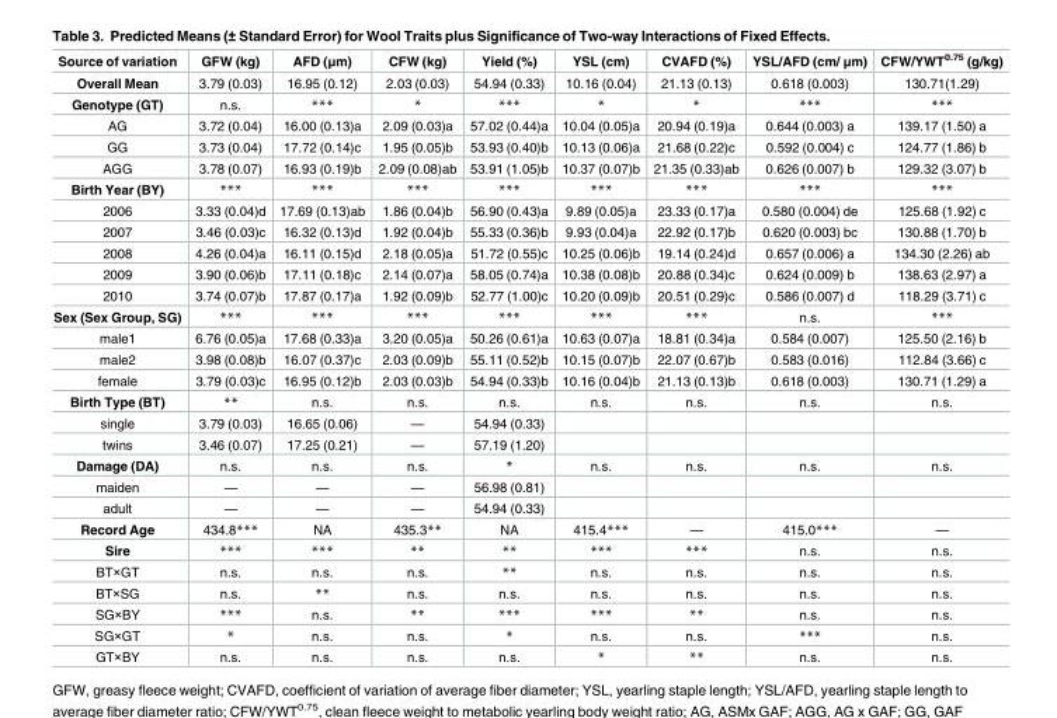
<table><thead><tr><td>Source of variation</td><td>GFW (kg)</td><td>AFD (μm)</td><td>CFW (kg)</td><td>Yield (%)</td><td>YSL (cm)</td><td>CVAFD (%)</td><td>YSL/AFD (cm/ μm)</td><td>CFW/YWT<sup>0.75</sup> (g/kg)</td></tr></thead><tbody><tr><td>Overall Mean</td><td>3.79 (0.03)</td><td>16.95 (0.12)</td><td>2.03 (0.03)</td><td>54.94 (0.33)</td><td>10.16 (0.04)</td><td>21.13 (0.13)</td><td>0.618 (0.003)</td><td>130.71(1.29)</td></tr><tr><td>Genotype (GT)</td><td>n.s.</td><td>***</td><td>*</td><td>***</td><td>*</td><td>*</td><td>***</td><td>***</td></tr><tr><td>AG</td><td>3.72 (0.04)</td><td>16.00 (0.13)a</td><td>2.09 (0.03)a</td><td>57.02 (0.44)a</td><td>10.04 (0.05)a</td><td>20.94 (0.19)a</td><td>0.644 (0.003) a</td><td>139.17 (1.50) a</td></tr><tr><td>GG</td><td>3.73 (0.04)</td><td>17.72 (0.14)c</td><td>1.95 (0.05)b</td><td>53.93 (0.40)b</td><td>10.13 (0.06)a</td><td>21.68 (0.22)c</td><td>0.592 (0.004) c</td><td>124.77 (1.86) b</td></tr><tr><td>AGG</td><td>3.78 (0.07)</td><td>16.93 (0.19)b</td><td>2.09 (0.08)ab</td><td>53.91 (1.05)b</td><td>10.37 (0.07)b</td><td>21.35 (0.33)ab</td><td>0.626 (0.007) b</td><td>129.32 (3.07) b</td></tr><tr><td>Birth Year (BY)</td><td>***</td><td>***</td><td>***</td><td>***</td><td>***</td><td>***</td><td>***</td><td>***</td></tr><tr><td>2006</td><td>3.33 (0.04)d</td><td>17.69 (0.13)ab</td><td>1.86 (0.04)b</td><td>56.90 (0.43)a</td><td>9.89 (0.05)a</td><td>23.33 (0.17)a</td><td>0.580 (0.004) de</td><td>125.68 (1.92) c</td></tr><tr><td>2007</td><td>3.46 (0.03)c</td><td>16.32 (0.13)d</td><td>1.92 (0.04)b</td><td>55.33 (0.36)b</td><td>9.93 (0.04)a</td><td>22.92 (0.17)b</td><td>0.620 (0.003) bc</td><td>130.88 (1.70) b</td></tr><tr><td>2008</td><td>4.26 (0.04)a</td><td>16.11 (0.15)d</td><td>2.18 (0.05)a</td><td>51.72 (0.55)c</td><td>10.25 (0.06)b</td><td>19.14 (0.24)d</td><td>0.657 (0.006) a</td><td>134.30 (2.26) ab</td></tr><tr><td>2009</td><td>3.90 (0.06)b</td><td>17.11 (0.18)c</td><td>2.14 (0.07)a</td><td>58.05 (0.74)a</td><td>10.38 (0.08)b</td><td>20.88 (0.34)c</td><td>0.624 (0.009) b</td><td>138.63 (2.97) a</td></tr><tr><td>2010</td><td>3.74 (0.07)b</td><td>17.87 (0.17)a</td><td>1.92 (0.09)b</td><td>52.77 (1.00)c</td><td>10.20 (0.09)b</td><td>20.51 (0.29)c</td><td>0.586 (0.007) d</td><td>118.29 (3.71) c</td></tr><tr><td>Sex (Sex Group, SG)</td><td>***</td><td>***</td><td>***</td><td>***</td><td>***</td><td>***</td><td>n.s.</td><td>***</td></tr><tr><td>male1</td><td>6.76 (0.05)a</td><td>17.68 (0.33)a</td><td>3.20 (0.05)a</td><td>50.26 (0.61)a</td><td>10.63 (0.07)a</td><td>18.81 (0.34)a</td><td>0.584 (0.007)</td><td>125.50 (2.16) b</td></tr><tr><td>male2</td><td>3.98 (0.08)b</td><td>16.07 (0.37)c</td><td>2.03 (0.09)b</td><td>55.11 (0.52)b</td><td>10.15 (0.07)b</td><td>22.07 (0.67)b</td><td>0.583 (0.016)</td><td>112.84 (3.66) c</td></tr><tr><td>female</td><td>3.79 (0.03)c</td><td>16.95 (0.12)b</td><td>2.03 (0.03)b</td><td>54.94 (0.33)b</td><td>10.16 (0.04)b</td><td>21.13 (0.13)b</td><td>0.618 (0.003)</td><td>130.71 (1.29) a</td></tr><tr><td>Birth Type (BT)</td><td>**</td><td>n.s.</td><td>n.s.</td><td>n.s.</td><td>n.s.</td><td>n.s.</td><td>n.s.</td><td>n.s.</td></tr><tr><td>single</td><td>3.79 (0.03)</td><td>16.65 (0.06)</td><td>—</td><td>54.94 (0.33)</td><td></td><td></td><td></td><td></td></tr><tr><td>twins</td><td>3.46 (0.07)</td><td>17.25 (0.21)</td><td>—</td><td>57.19 (1.20)</td><td></td><td></td><td></td><td></td></tr><tr><td>Damage (DA)</td><td>n.s.</td><td>n.s.</td><td>n.s.</td><td>*</td><td>n.s.</td><td>n.s.</td><td>n.s.</td><td>n.s.</td></tr><tr><td>maiden</td><td>—</td><td>—</td><td>—</td><td>56.98 (0.81)</td><td></td><td></td><td></td><td></td></tr><tr><td>adult</td><td>—</td><td>—</td><td>—</td><td>54.94 (0.33)</td><td></td><td></td><td></td><td></td></tr><tr><td>Record Age</td><td>434.8***</td><td>NA</td><td>435.3**</td><td>NA</td><td>415.4***</td><td>—</td><td>415.0***</td><td>—</td></tr><tr><td>Sire</td><td>***</td><td>***</td><td>**</td><td>**</td><td>***</td><td>***</td><td>n.s.</td><td>n.s.</td></tr><tr><td>BT×GT</td><td>n.s.</td><td>n.s.</td><td>n.s.</td><td>**</td><td>n.s.</td><td>n.s.</td><td>n.s.</td><td>n.s.</td></tr><tr><td>BT×SG</td><td>n.s.</td><td>**</td><td>n.s.</td><td>n.s.</td><td>n.s.</td><td>n.s.</td><td>n.s.</td><td>n.s.</td></tr><tr><td>SG×BY</td><td>***</td><td>n.s.</td><td>**</td><td>***</td><td>***</td><td>**</td><td>n.s.</td><td>n.s.</td></tr><tr><td>SG×GT</td><td>*</td><td>n.s.</td><td>n.s.</td><td>*</td><td>n.s.</td><td>n.s.</td><td>***</td><td>n.s.</td></tr><tr><td>GT×BY</td><td>n.s.</td><td>n.s.</td><td>n.s.</td><td>n.s.</td><td>*</td><td>**</td><td>n.s.</td><td>n.s.</td></tr></tbody></table>